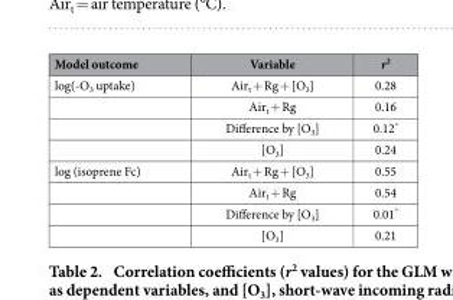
<table><thead><tr><td>Model outcome</td><td>Variable</td><td>r<sup>2</sup></td></tr></thead><tbody><tr><td rowspan="4">log(-O<sub>3</sub> uptake)</td><td>Air<sub>t</sub> + Rg + [O<sub>3</sub>]</td><td>0.28</td></tr><tr><td>Air<sub>t</sub> + Rg</td><td>0.16</td></tr><tr><td>Difference by [O<sub>3</sub>]</td><td>0.12*</td></tr><tr><td>[O<sub>3</sub>]</td><td>0.24</td></tr><tr><td rowspan="4">log (isoprene Fc)</td><td>Air<sub>t</sub> + Rg + [O<sub>3</sub>]</td><td>0.55</td></tr><tr><td>Air<sub>t</sub> + Rg</td><td>0.54</td></tr><tr><td>Difference by [O<sub>3</sub>]</td><td>0.01*</td></tr><tr><td>[O<sub>3</sub>]</td><td>0.21</td></tr></tbody></table>